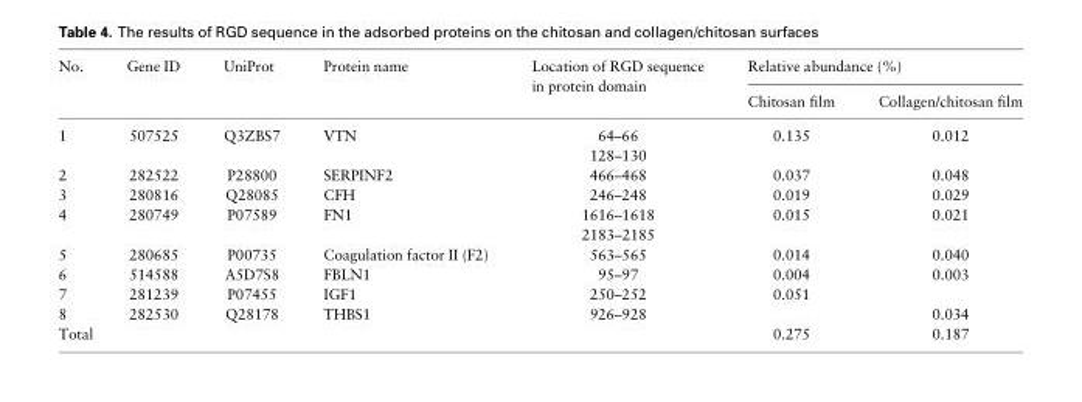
<table><thead><tr><td rowspan="2">No.</td><td rowspan="2">Gene ID</td><td rowspan="2">UniProt</td><td rowspan="2">Protein name</td><td rowspan="2">Location of RGD sequence in protein domain</td><td colspan="2">Relative abundance (%)</td></tr><tr><td>Chitosan film</td><td>Collagen/chitosan film</td></tr></thead><tbody><tr><td rowspan="2">1</td><td rowspan="2">507525</td><td rowspan="2">Q3ZBS7</td><td rowspan="2">VTN</td><td>64–66</td><td rowspan="2">0.135</td><td rowspan="2">0.012</td></tr><tr><td>128–130</td></tr><tr><td>2</td><td>282522</td><td>P28800</td><td>SERPINF2</td><td>466–468</td><td>0.037</td><td>0.048</td></tr><tr><td>3</td><td>280816</td><td>Q28085</td><td>CFH</td><td>246–248</td><td>0.019</td><td>0.029</td></tr><tr><td rowspan="2">4</td><td rowspan="2">280749</td><td rowspan="2">P07589</td><td rowspan="2">FN1</td><td>1616–1618</td><td rowspan="2">0.015</td><td rowspan="2">0.021</td></tr><tr><td>2183–2185</td></tr><tr><td>5</td><td>280685</td><td>P00735</td><td>Coagulation factor II (F2)</td><td>563–565</td><td>0.014</td><td>0.040</td></tr><tr><td>6</td><td>514588</td><td>A5D7S8</td><td>FBLN1</td><td>95–97</td><td>0.004</td><td>0.003</td></tr><tr><td>7</td><td>281239</td><td>P07455</td><td>IGF1</td><td>250–252</td><td>0.051</td><td></td></tr><tr><td>8</td><td>282530</td><td>Q28178</td><td>THBS1</td><td>926–928</td><td></td><td>0.034</td></tr><tr><td colspan="5">Total</td><td>0.275</td><td>0.187</td></tr></tbody></table>